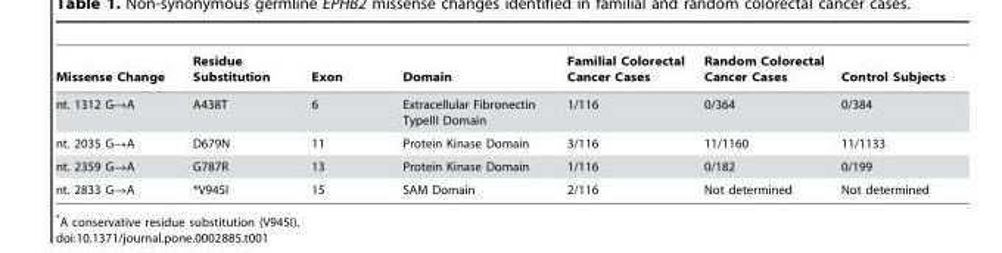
<table><thead><tr><td>Missense Change</td><td>Residue Substitution</td><td>Exon</td><td>Domain</td><td>Familial Colorectal Cancer Cases</td><td>Random Colorectal Cancer Cases</td><td>Control Subjects</td></tr></thead><tbody><tr><td>nt. 1312 G→A</td><td>A438T</td><td>6</td><td>Extracellular Fibronectin TypeIII Domain</td><td>1/116</td><td>0/364</td><td>0/384</td></tr><tr><td>nt. 2035 G→A</td><td>D679N</td><td>11</td><td>Protein Kinase Domain</td><td>3/116</td><td>11/1160</td><td>11/1133</td></tr><tr><td>nt. 2359 G→A</td><td>G787R</td><td>13</td><td>Protein Kinase Domain</td><td>1/116</td><td>0/182</td><td>0/199</td></tr><tr><td>nt. 2833 G→A</td><td>*V945I</td><td>15</td><td>SAM Domain</td><td>2/116</td><td>Not determined</td><td>Not determined</td></tr></tbody></table>